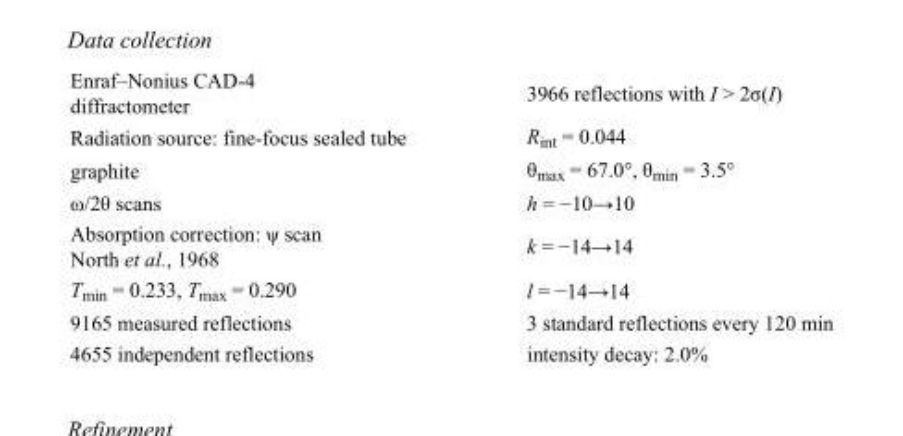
<table><tbody><tr><td>Enraf–Nonius CAD-4 diffractometer</td><td>3966 reflections with I &gt; 2σ(I)</td></tr><tr><td>Radiation source: fine-focus sealed tube</td><td>R<sub>int</sub> = 0.044</td></tr><tr><td>graphite</td><td>θ<sub>max</sub> = 67.0°, θ<sub>min</sub> = 3.5°</td></tr><tr><td>ω/2θ scans</td><td>h = −10→10</td></tr><tr><td>Absorption correction: ψ scan North et al., 1968</td><td>k = −14→14</td></tr><tr><td>T<sub>min</sub> = 0.233, T<sub>max</sub> = 0.290</td><td>l = −14→14</td></tr><tr><td>9165 measured reflections</td><td>3 standard reflections every 120 min</td></tr><tr><td>4655 independent reflections</td><td>intensity decay: 2.0%</td></tr></tbody></table>